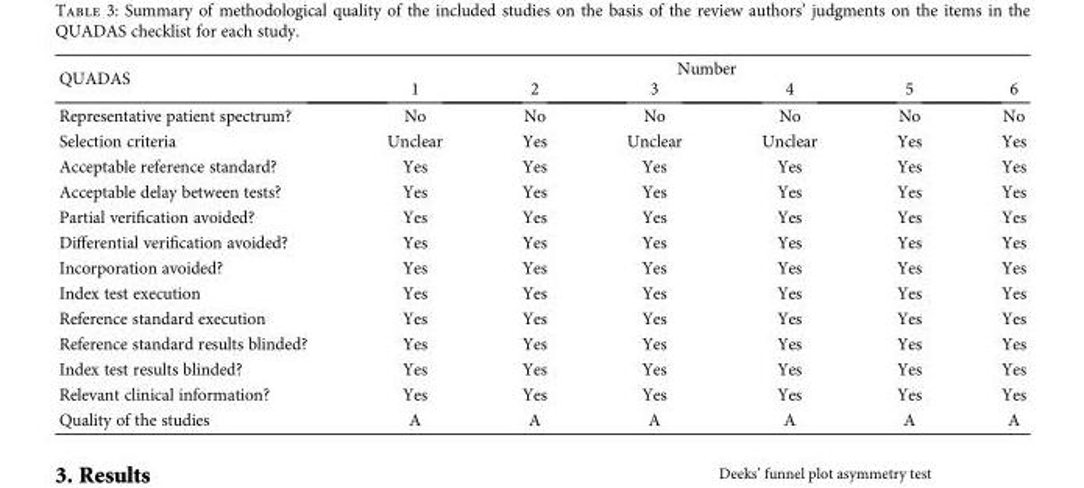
<table><thead><tr><td rowspan="2">QUADAS</td><td colspan="6">Number</td></tr><tr><td>1</td><td>2</td><td>3</td><td>4</td><td>5</td><td>6</td></tr></thead><tbody><tr><td>Representative patient spectrum?</td><td>No</td><td>No</td><td>No</td><td>No</td><td>No</td><td>No</td></tr><tr><td>Selection criteria</td><td>Unclear</td><td>Yes</td><td>Unclear</td><td>Unclear</td><td>Yes</td><td>Yes</td></tr><tr><td>Acceptable reference standard?</td><td>Yes</td><td>Yes</td><td>Yes</td><td>Yes</td><td>Yes</td><td>Yes</td></tr><tr><td>Acceptable delay between tests?</td><td>Yes</td><td>Yes</td><td>Yes</td><td>Yes</td><td>Yes</td><td>Yes</td></tr><tr><td>Partial verification avoided?</td><td>Yes</td><td>Yes</td><td>Yes</td><td>Yes</td><td>Yes</td><td>Yes</td></tr><tr><td>Differential verification avoided?</td><td>Yes</td><td>Yes</td><td>Yes</td><td>Yes</td><td>Yes</td><td>Yes</td></tr><tr><td>Incorporation avoided?</td><td>Yes</td><td>Yes</td><td>Yes</td><td>Yes</td><td>Yes</td><td>Yes</td></tr><tr><td>Index test execution</td><td>Yes</td><td>Yes</td><td>Yes</td><td>Yes</td><td>Yes</td><td>Yes</td></tr><tr><td>Reference standard execution</td><td>Yes</td><td>Yes</td><td>Yes</td><td>Yes</td><td>Yes</td><td>Yes</td></tr><tr><td>Reference standard results blinded?</td><td>Yes</td><td>Yes</td><td>Yes</td><td>Yes</td><td>Yes</td><td>Yes</td></tr><tr><td>Index test results blinded?</td><td>Yes</td><td>Yes</td><td>Yes</td><td>Yes</td><td>Yes</td><td>Yes</td></tr><tr><td>Relevant clinical information?</td><td>Yes</td><td>Yes</td><td>Yes</td><td>Yes</td><td>Yes</td><td>Yes</td></tr><tr><td>Quality of the studies</td><td>A</td><td>A</td><td>A</td><td>A</td><td>A</td><td>A</td></tr></tbody></table>